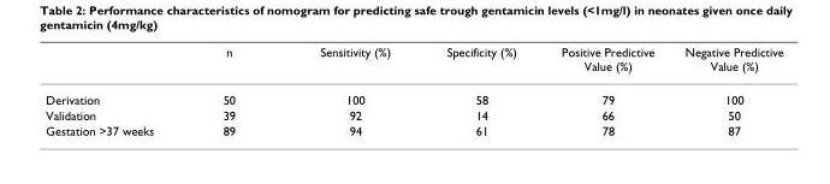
<table><thead><tr><td></td><td>n</td><td>Sensitivity (%)</td><td>Specificity (%)</td><td>Positive Predictive Value (%)</td><td>Negative Predictive Value (%)</td></tr></thead><tbody><tr><td>Derivation</td><td>50</td><td>100</td><td>58</td><td>79</td><td>100</td></tr><tr><td>Validation</td><td>39</td><td>92</td><td>14</td><td>66</td><td>50</td></tr><tr><td>Gestation &gt;37 weeks</td><td>89</td><td>94</td><td>61</td><td>78</td><td>87</td></tr></tbody></table>